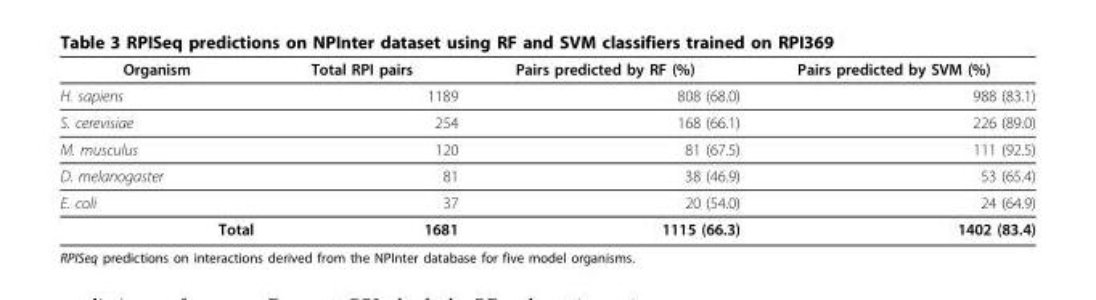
<table><thead><tr><td>Organism</td><td>Total RPI pairs</td><td>Pairs predicted by RF (%)</td><td>Pairs predicted by SVM (%)</td></tr></thead><tbody><tr><td>H. sapiens</td><td>1189</td><td>808 (68.0)</td><td>988 (83.1)</td></tr><tr><td>S. cerevisiae</td><td>254</td><td>168 (66.1)</td><td>226 (89.0)</td></tr><tr><td>M. musculus</td><td>120</td><td>81 (67.5)</td><td>111 (92.5)</td></tr><tr><td>D. melanogaster</td><td>81</td><td>38 (46.9)</td><td>53 (65.4)</td></tr><tr><td>E. coli</td><td>37</td><td>20 (54.0)</td><td>24 (64.9)</td></tr><tr><td>Total</td><td>1681</td><td>1115 (66.3)</td><td>1402 (83.4)</td></tr></tbody></table>